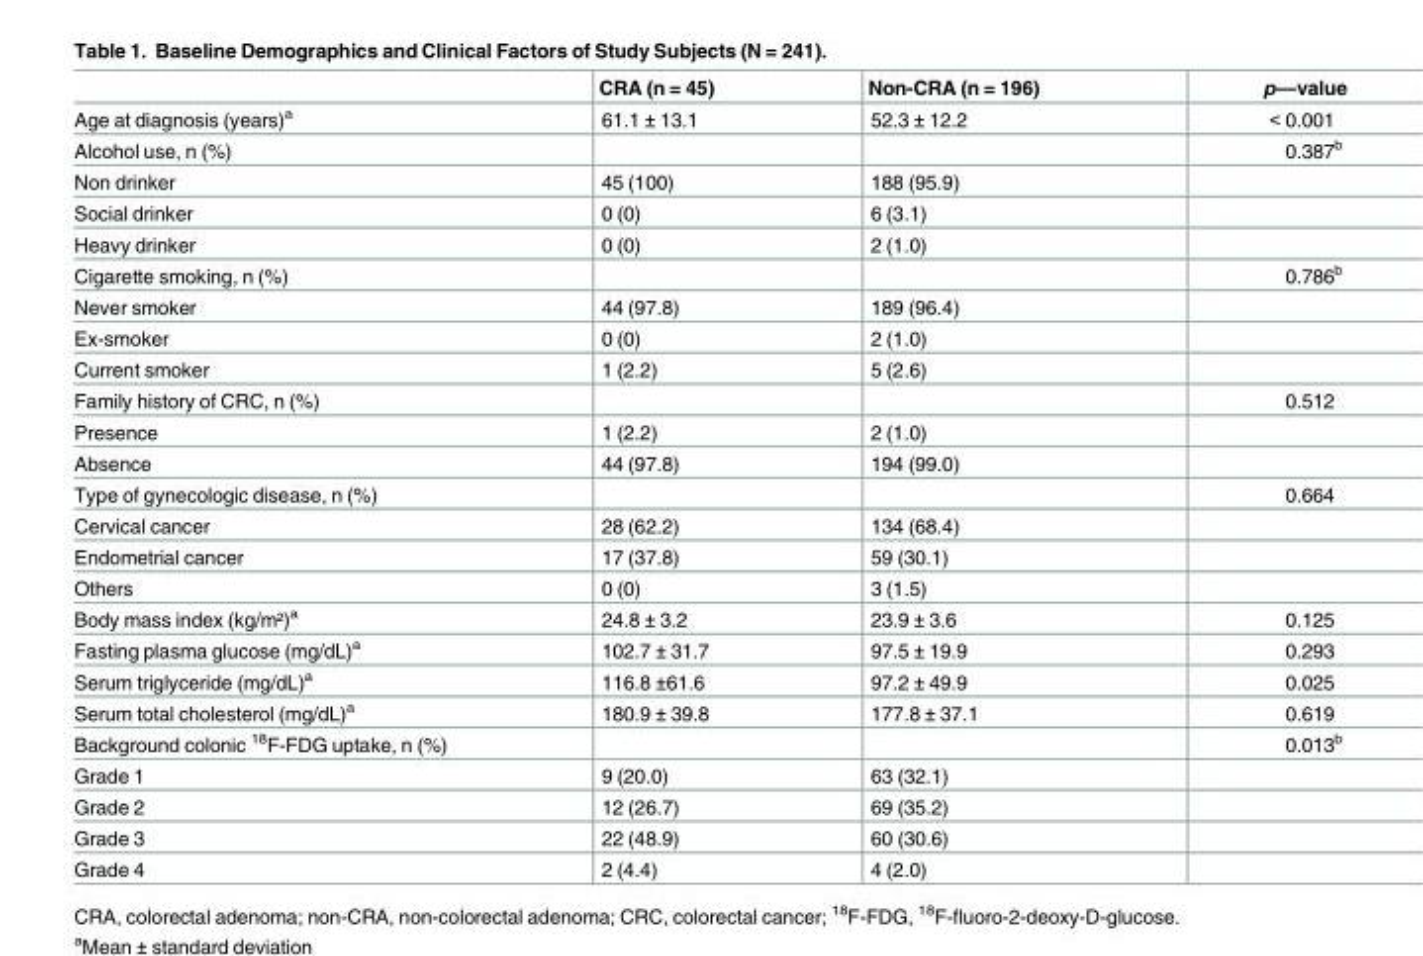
<table><thead><tr><td></td><td>CRA (n = 45)</td><td>Non-CRA (n = 196)</td><td>p—value</td></tr></thead><tbody><tr><td>Age at diagnosis (years)<sup>a</sup></td><td>61.1 ± 13.1</td><td>52.3 ± 12.2</td><td>&lt; 0.001</td></tr><tr><td>Alcohol use, n (%)</td><td></td><td></td><td>0.387<sup>b</sup></td></tr><tr><td>Non drinker</td><td>45 (100)</td><td>188 (95.9)</td><td></td></tr><tr><td>Social drinker</td><td>0 (0)</td><td>6 (3.1)</td><td></td></tr><tr><td>Heavy drinker</td><td>0 (0)</td><td>2 (1.0)</td><td></td></tr><tr><td>Cigarette smoking, n (%)</td><td></td><td></td><td>0.786<sup>b</sup></td></tr><tr><td>Never smoker</td><td>44 (97.8)</td><td>189 (96.4)</td><td></td></tr><tr><td>Ex-smoker</td><td>0 (0)</td><td>2 (1.0)</td><td></td></tr><tr><td>Current smoker</td><td>1 (2.2)</td><td>5 (2.6)</td><td></td></tr><tr><td>Family history of CRC, n (%)</td><td></td><td></td><td>0.512</td></tr><tr><td>Presence</td><td>1 (2.2)</td><td>2 (1.0)</td><td></td></tr><tr><td>Absence</td><td>44 (97.8)</td><td>194 (99.0)</td><td></td></tr><tr><td>Type of gynecologic disease, n (%)</td><td></td><td></td><td>0.664</td></tr><tr><td>Cervical cancer</td><td>28 (62.2)</td><td>134 (68.4)</td><td></td></tr><tr><td>Endometrial cancer</td><td>17 (37.8)</td><td>59 (30.1)</td><td></td></tr><tr><td>Others</td><td>0 (0)</td><td>3 (1.5)</td><td></td></tr><tr><td>Body mass index (kg/m²)<sup>a</sup></td><td>24.8 ± 3.2</td><td>23.9 ± 3.6</td><td>0.125</td></tr><tr><td>Fasting plasma glucose (mg/dL)<sup>a</sup></td><td>102.7 ± 31.7</td><td>97.5 ± 19.9</td><td>0.293</td></tr><tr><td>Serum triglyceride (mg/dL)<sup>a</sup></td><td>116.8 ±61.6</td><td>97.2 ± 49.9</td><td>0.025</td></tr><tr><td>Serum total cholesterol (mg/dL)<sup>a</sup></td><td>180.9 ± 39.8</td><td>177.8 ± 37.1</td><td>0.619</td></tr><tr><td>Background colonic <sup>18</sup>F-FDG uptake, n (%)</td><td></td><td></td><td>0.013<sup>b</sup></td></tr><tr><td>Grade 1</td><td>9 (20.0)</td><td>63 (32.1)</td><td></td></tr><tr><td>Grade 2</td><td>12 (26.7)</td><td>69 (35.2)</td><td></td></tr><tr><td>Grade 3</td><td>22 (48.9)</td><td>60 (30.6)</td><td></td></tr><tr><td>Grade 4</td><td>2 (4.4)</td><td>4 (2.0)</td><td></td></tr></tbody></table>